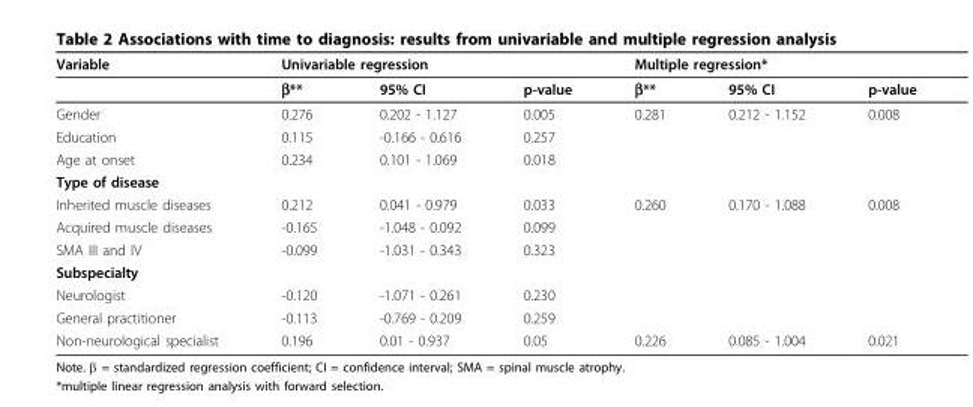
<table><thead><tr><td rowspan="2">Variable</td><td colspan="3">Univariable regression</td><td colspan="3">Multiple regression*</td></tr><tr><td>β**</td><td>95% CI</td><td>p-value</td><td>β**</td><td>95% CI</td><td>p-value</td></tr></thead><tbody><tr><td>Gender</td><td>0.276</td><td>0.202 - 1.127</td><td>0.005</td><td>0.281</td><td>0.212 - 1.152</td><td>0.008</td></tr><tr><td>Education</td><td>0.115</td><td>-0.166 - 0.616</td><td>0.257</td><td></td><td></td><td></td></tr><tr><td>Age at onset</td><td>0.234</td><td>0.101 - 1.069</td><td>0.018</td><td></td><td></td><td></td></tr><tr><td colspan="7">Type of disease</td></tr><tr><td>Inherited muscle diseases</td><td>0.212</td><td>0.041 - 0.979</td><td>0.033</td><td>0.260</td><td>0.170 - 1.088</td><td>0.008</td></tr><tr><td>Acquired muscle diseases</td><td>-0.165</td><td>-1.048 - 0.092</td><td>0.099</td><td></td><td></td><td></td></tr><tr><td>SMA III and IV</td><td>-0.099</td><td>-1.031 - 0.343</td><td>0.323</td><td></td><td></td><td></td></tr><tr><td colspan="7">Subspecialty</td></tr><tr><td>Neurologist</td><td>-0.120</td><td>-1.071 - 0.261</td><td>0.230</td><td></td><td></td><td></td></tr><tr><td>General practitioner</td><td>-0.113</td><td>-0.769 - 0.209</td><td>0.259</td><td></td><td></td><td></td></tr><tr><td>Non-neurological specialist</td><td>0.196</td><td>0.01 - 0.937</td><td>0.05</td><td>0.226</td><td>0.085 - 1.004</td><td>0.021</td></tr></tbody></table>